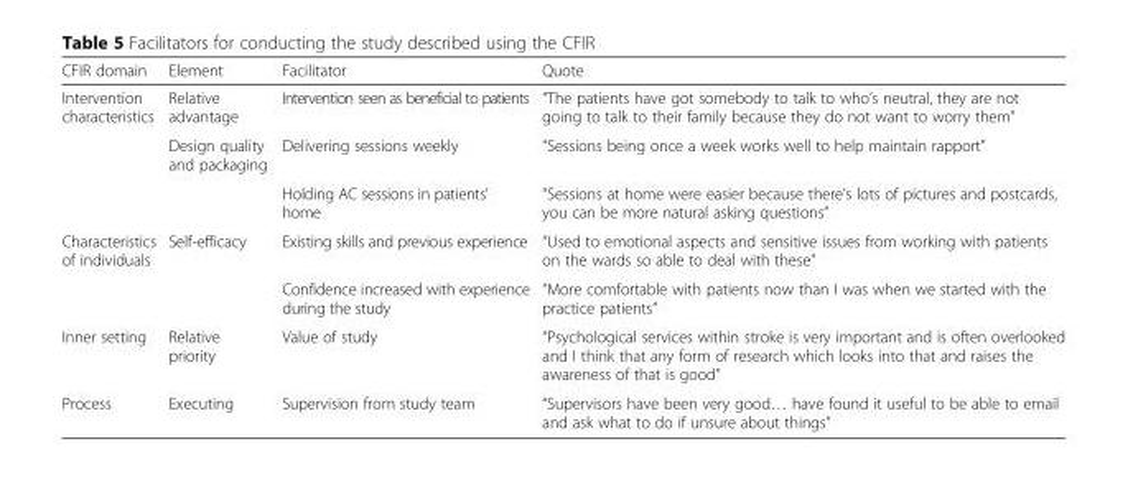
<table><thead><tr><td>CFIR domain</td><td>Element</td><td>Facilitator</td><td>Quote</td></tr></thead><tbody><tr><td rowspan="3">Intervention characteristics</td><td>Relative advantage</td><td>Intervention seen as beneficial to patients</td><td>“The patients have got somebody to talk to who’s neutral, they are not going to talk to their family because they do not want to worry them”</td></tr><tr><td>Design quality and packaging</td><td>Delivering sessions weekly</td><td>“Sessions being once a week works well to help maintain rapport”</td></tr><tr><td></td><td>Holding AC sessions in patients’ home</td><td>“Sessions at home were easier because there’s lots of pictures and postcards, you can be more natural asking questions”</td></tr><tr><td rowspan="2">Characteristics of individuals</td><td>Self-efficacy</td><td>Existing skills and previous experience</td><td>“Used to emotional aspects and sensitive issues from working with patients on the wards so able to deal with these”</td></tr><tr><td></td><td>Confidence increased with experience during the study</td><td>“More comfortable with patients now than I was when we started with the practice patients”</td></tr><tr><td>Inner setting</td><td>Relative priority</td><td>Value of study</td><td>“Psychological services within stroke is very important and is often overlooked and I think that any form of research which looks into that and raises the awareness of that is good”</td></tr><tr><td>Process</td><td>Executing</td><td>Supervision from study team</td><td>“Supervisors have been very good… have found it useful to be able to email and ask what to do if unsure about things”</td></tr></tbody></table>